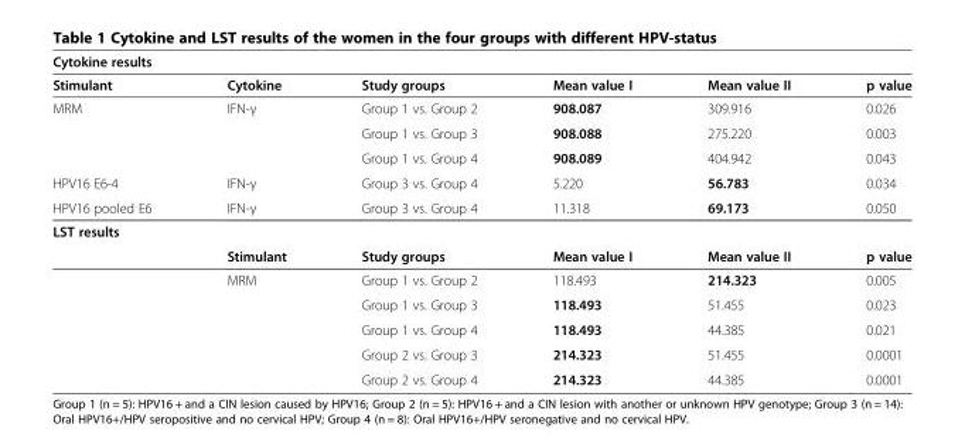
<table><thead><tr><td colspan="6">Cytokine results</td></tr><tr><td>Stimulant</td><td>Cytokine</td><td>Study groups</td><td>Mean value I</td><td>Mean value II</td><td>p value</td></tr></thead><tbody><tr><td rowspan="3">MRM</td><td>IFN-γ</td><td>Group 1 vs. Group 2</td><td>908.087</td><td>309.916</td><td>0.026</td></tr><tr><td></td><td>Group 1 vs. Group 3</td><td>908.088</td><td>275.220</td><td>0.003</td></tr><tr><td></td><td>Group 1 vs. Group 4</td><td>908.089</td><td>404.942</td><td>0.043</td></tr><tr><td>HPV16 E6-4</td><td>IFN-γ</td><td>Group 3 vs. Group 4</td><td>5.220</td><td>56.783</td><td>0.034</td></tr><tr><td>HPV16 pooled E6</td><td>IFN-γ</td><td>Group 3 vs. Group 4</td><td>11.318</td><td>69.173</td><td>0.050</td></tr><tr><td colspan="6">LST results</td></tr><tr><td></td><td>Stimulant</td><td>Study groups</td><td>Mean value I</td><td>Mean value II</td><td>p value</td></tr><tr><td></td><td>MRM</td><td>Group 1 vs. Group 2</td><td>118.493</td><td>214.323</td><td>0.005</td></tr><tr><td></td><td></td><td>Group 1 vs. Group 3</td><td>118.493</td><td>51.455</td><td>0.023</td></tr><tr><td></td><td></td><td>Group 1 vs. Group 4</td><td>118.493</td><td>44.385</td><td>0.021</td></tr><tr><td></td><td></td><td>Group 2 vs. Group 3</td><td>214.323</td><td>51.455</td><td>0.0001</td></tr><tr><td></td><td></td><td>Group 2 vs. Group 4</td><td>214.323</td><td>44.385</td><td>0.0001</td></tr></tbody></table>